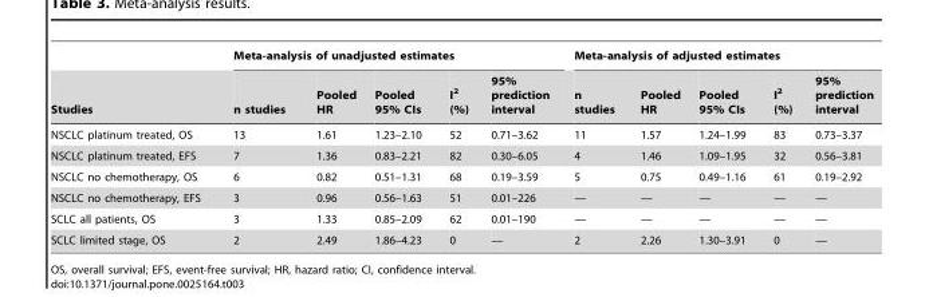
<table><thead><tr><td rowspan="2">Studies</td><td colspan="5">Meta-analysis of unadjusted estimates</td><td colspan="5">Meta-analysis of adjusted estimates</td></tr><tr><td>n studies</td><td>Pooled HR</td><td>Pooled 95% CIs</td><td>I<sup>2</sup> (%)</td><td>95% prediction interval</td><td>n studies</td><td>Pooled HR</td><td>Pooled 95% CIs</td><td>I<sup>2</sup> (%)</td><td>95% prediction interval</td></tr></thead><tbody><tr><td>NSCLC platinum treated, OS</td><td>13</td><td>1.61</td><td>1.23–2.10</td><td>52</td><td>0.71–3.62</td><td>11</td><td>1.57</td><td>1.24–1.99</td><td>83</td><td>0.73–3.37</td></tr><tr><td>NSCLC platinum treated, EFS</td><td>7</td><td>1.36</td><td>0.83–2.21</td><td>82</td><td>0.30–6.05</td><td>4</td><td>1.46</td><td>1.09–1.95</td><td>32</td><td>0.56–3.81</td></tr><tr><td>NSCLC no chemotherapy, OS</td><td>6</td><td>0.82</td><td>0.51–1.31</td><td>68</td><td>0.19–3.59</td><td>5</td><td>0.75</td><td>0.49–1.16</td><td>61</td><td>0.19–2.92</td></tr><tr><td>NSCLC no chemotherapy, EFS</td><td>3</td><td>0.96</td><td>0.56–1.63</td><td>51</td><td>0.01–226</td><td>—</td><td>—</td><td>—</td><td>—</td><td>—</td></tr><tr><td>SCLC all patients, OS</td><td>3</td><td>1.33</td><td>0.85–2.09</td><td>62</td><td>0.01–190</td><td>—</td><td>—</td><td>—</td><td>—</td><td>—</td></tr><tr><td>SCLC limited stage, OS</td><td>2</td><td>2.49</td><td>1.86–4.23</td><td>0</td><td>—</td><td>2</td><td>2.26</td><td>1.30–3.91</td><td>0</td><td>—</td></tr></tbody></table>